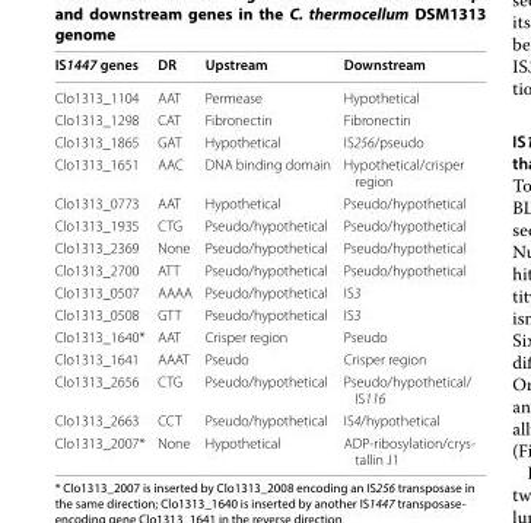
<table><thead><tr><td>IS1447 genes</td><td>DR</td><td>Upstream</td><td>Downstream</td></tr></thead><tbody><tr><td>Clo1313_1104</td><td>AAT</td><td>Permease</td><td>Hypothetical</td></tr><tr><td>Clo1313_1298</td><td>CAT</td><td>Fibronectin</td><td>Fibronectin</td></tr><tr><td>Clo1313_1865</td><td>GAT</td><td>Hypothetical</td><td>IS256/pseudo</td></tr><tr><td>Clo1313_1651</td><td>AAC</td><td>DNA binding domain</td><td>Hypothetical/crisper region</td></tr><tr><td>Clo1313_0773</td><td>AAT</td><td>Hypothetical</td><td>Pseudo/hypothetical</td></tr><tr><td>Clo1313_1935</td><td>CTG</td><td>Pseudo/hypothetical</td><td>Pseudo/hypothetical</td></tr><tr><td>Clo1313_2369</td><td>None</td><td>Pseudo/hypothetical</td><td>Pseudo/hypothetical</td></tr><tr><td>Clo1313_2700</td><td>ATT</td><td>Pseudo/hypothetical</td><td>Pseudo/hypothetical</td></tr><tr><td>Clo1313_0507</td><td>AAAA</td><td>Pseudo/hypothetical</td><td>IS3</td></tr><tr><td>Clo1313_0508</td><td>GTT</td><td>Pseudo/hypothetical</td><td>IS3</td></tr><tr><td>Clo1313_1640*</td><td>AAT</td><td>Crisper region</td><td>Pseudo</td></tr><tr><td>Clo1313_1641</td><td>AAAT</td><td>Pseudo</td><td>Crisper region</td></tr><tr><td>Clo1313_2656</td><td>CTG</td><td>Pseudo/hypothetical</td><td>Pseudo/hypothetical/ IS116</td></tr><tr><td>Clo1313_2663</td><td>CCT</td><td>Pseudo/hypothetical</td><td>IS4/hypothetical</td></tr><tr><td>Clo1313_2007*</td><td>None</td><td>Hypothetical</td><td>ADP‑ribosylation/crys‑ tallin J1</td></tr></tbody></table>